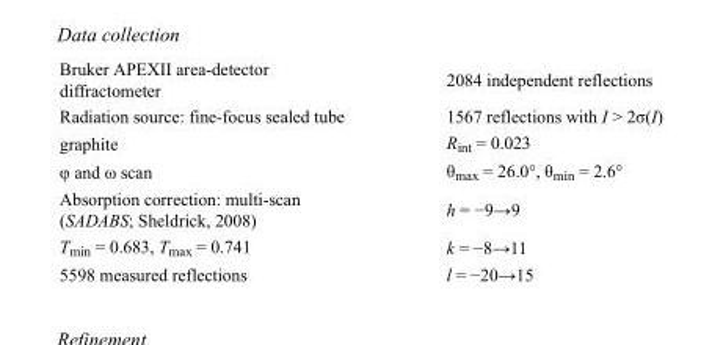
<table><tbody><tr><td>Bruker APEXII area-detector diffractometer</td><td>2084 independent reflections</td></tr><tr><td>Radiation source: fine-focus sealed tube</td><td>1567 reflections with I &gt; 2σ(I)</td></tr><tr><td>graphite</td><td>R<sub>int</sub> = 0.023</td></tr><tr><td>φ and ω scan</td><td>θ<sub>max</sub> = 26.0°, θ<sub>min</sub> = 2.6°</td></tr><tr><td>Absorption correction: multi-scan (SADABS; Sheldrick, 2008)</td><td>h = −9→9</td></tr><tr><td>T<sub>min</sub> = 0.683, T<sub>max</sub> = 0.741</td><td>k = −8→11</td></tr><tr><td>5598 measured reflections</td><td>l = −20→15</td></tr></tbody></table>